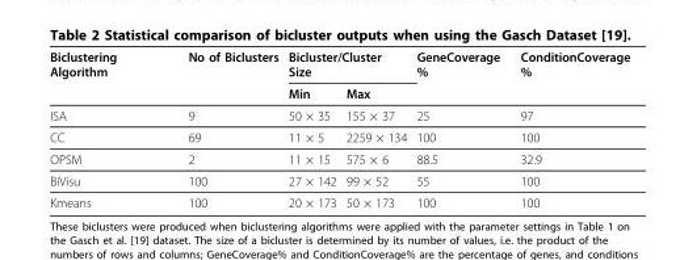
<table><thead><tr><td rowspan="2">Biclustering Algorithm</td><td rowspan="2">No of Biclusters</td><td colspan="2">Bicluster/Cluster Size</td><td rowspan="2">GeneCoverage %</td><td rowspan="2">ConditionCoverage %</td></tr><tr><td>Min</td><td>Max</td></tr></thead><tbody><tr><td>ISA</td><td>9</td><td>50 × 35</td><td>155 × 37</td><td>25</td><td>97</td></tr><tr><td>CC</td><td>69</td><td>11 × 5</td><td>2259 × 134</td><td>100</td><td>100</td></tr><tr><td>OPSM</td><td>2</td><td>11 × 15</td><td>575 × 6</td><td>88.5</td><td>32.9</td></tr><tr><td>BiVisu</td><td>100</td><td>27 × 142</td><td>99 × 52</td><td>55</td><td>100</td></tr><tr><td>Kmeans</td><td>100</td><td>20 × 173</td><td>50 × 173</td><td>100</td><td>100</td></tr></tbody></table>